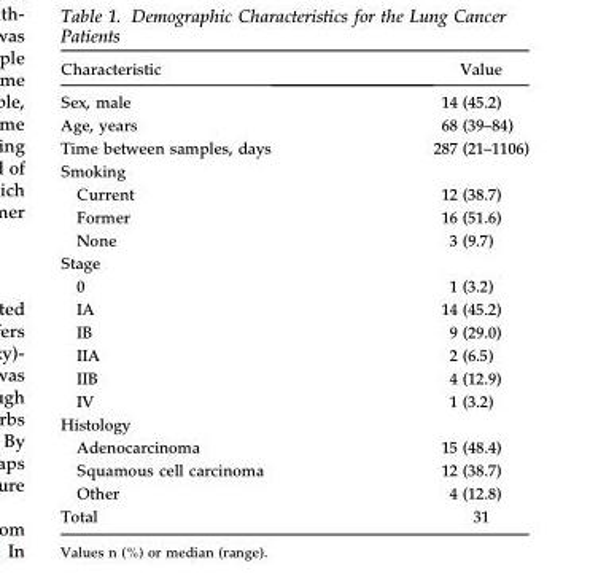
<table><thead><tr><td>Characteristic</td><td>Value</td></tr></thead><tbody><tr><td>Sex, male</td><td>14 (45.2)</td></tr><tr><td>Age, years</td><td>68 (39–84)</td></tr><tr><td>Time between samples, days</td><td>287 (21–1106)</td></tr><tr><td colspan="2">Smoking</td></tr><tr><td>Current</td><td>12 (38.7)</td></tr><tr><td>Former</td><td>16 (51.6)</td></tr><tr><td>None</td><td>3 (9.7)</td></tr><tr><td colspan="2">Stage</td></tr><tr><td>0</td><td>1 (3.2)</td></tr><tr><td>IA</td><td>14 (45.2)</td></tr><tr><td>IB</td><td>9 (29.0)</td></tr><tr><td>IIA</td><td>2 (6.5)</td></tr><tr><td>IIB</td><td>4 (12.9)</td></tr><tr><td>IV</td><td>1 (3.2)</td></tr><tr><td colspan="2">Histology</td></tr><tr><td>Adenocarcinoma</td><td>15 (48.4)</td></tr><tr><td>Squamous cell carcinoma</td><td>12 (38.7)</td></tr><tr><td>Other</td><td>4 (12.8)</td></tr><tr><td>Total</td><td>31</td></tr></tbody></table>